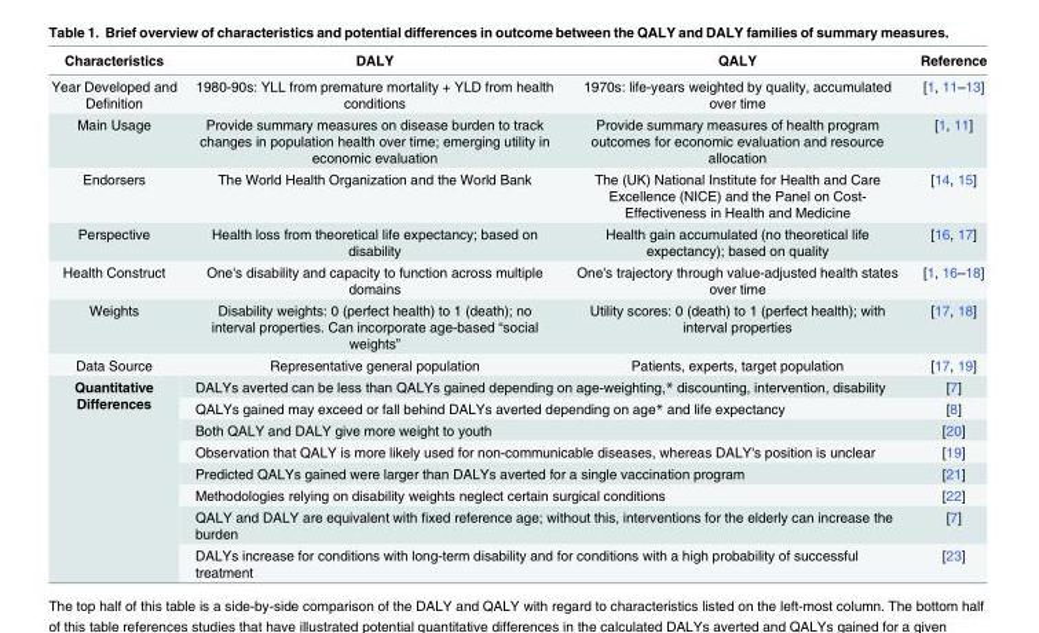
<table><thead><tr><td>Characteristics</td><td>DALY</td><td>QALY</td><td>Reference</td></tr></thead><tbody><tr><td>Year Developed and Definition</td><td>1980-90s: YLL from premature mortality + YLD from health conditions</td><td>1970s: life-years weighted by quality, accumulated over time</td><td>[1, 11–13]</td></tr><tr><td>Main Usage</td><td>Provide summary measures on disease burden to track changes in population health over time; emerging utility in economic evaluation</td><td>Provide summary measures of health program outcomes for economic evaluation and resource allocation</td><td>[1, 11]</td></tr><tr><td>Endorsers</td><td>The World Health Organization and the World Bank</td><td>The (UK) National Institute for Health and Care Excellence (NICE) and the Panel on Cost- Effectiveness in Health and Medicine</td><td>[14, 15]</td></tr><tr><td>Perspective</td><td>Health loss from theoretical life expectancy; based on disability</td><td>Health gain accumulated (no theoretical life expectancy); based on quality</td><td>[16, 17]</td></tr><tr><td>Health Construct</td><td>One&#x27;s disability and capacity to function across multiple domains</td><td>One&#x27;s trajectory through value-adjusted health states over time</td><td>[1, 16–18]</td></tr><tr><td>Weights</td><td>Disability weights: 0 (perfect health) to 1 (death); no interval properties. Can incorporate age-based “social weights”</td><td>Utility scores: 0 (death) to 1 (perfect health); with interval properties</td><td>[17, 18]</td></tr><tr><td>Data Source</td><td>Representative general population</td><td>Patients, experts, target population</td><td>[17, 19]</td></tr><tr><td rowspan="8">Quantitative Differences</td><td colspan="2">DALYs averted can be less than QALYs gained depending on age-weighting,* discounting, intervention, disability</td><td>[7]</td></tr><tr><td colspan="2">QALYs gained may exceed or fall behind DALYs averted depending on age* and life expectancy</td><td>[8]</td></tr><tr><td colspan="2">Both QALY and DALY give more weight to youth</td><td>[20]</td></tr><tr><td colspan="2">Observation that QALY is more likely used for non-communicable diseases, whereas DALY&#x27;s position is unclear</td><td>[19]</td></tr><tr><td colspan="2">Predicted QALYs gained were larger than DALYs averted for a single vaccination program</td><td>[21]</td></tr><tr><td colspan="2">Methodologies relying on disability weights neglect certain surgical conditions</td><td>[22]</td></tr><tr><td colspan="2">QALY and DALY are equivalent with fixed reference age; without this, interventions for the elderly can increase the burden</td><td>[7]</td></tr><tr><td colspan="2">DALYs increase for conditions with long-term disability and for conditions with a high probability of successful treatment</td><td>[23]</td></tr></tbody></table>